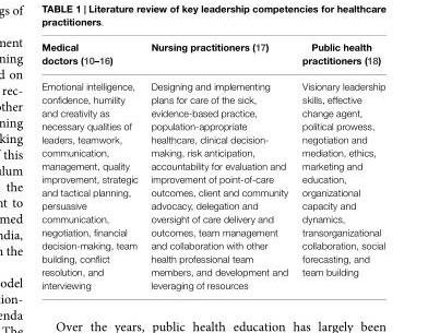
<table><thead><tr><td>Medical doctors (10–16)</td><td>Nursing practitioners (17)</td><td>Public health practitioners (18)</td></tr></thead><tbody><tr><td>Emotional intelligence, confidence, humility and creativity as necessary qualities of leaders, teamwork, communication, management, quality improvement, strategic and tactical planning, persuasive communication, negotiation, financial decision-making, team building, conflict resolution, and interviewing</td><td>Designing and implementing plans for care of the sick, evidence-based practice, population-appropriate healthcare, clinical decision- making, risk anticipation, accountability for evaluation and improvement of point-of-care outcomes, client and community advocacy, delegation and oversight of care delivery and outcomes, team management and collaboration with other health professional team members, and development and leveraging of resources</td><td>Visionary leadership skills, effective change agent, political prowess, negotiation and mediation, ethics, marketing and education, organizational capacity and dynamics, transorganizational collaboration, social forecasting, and team building</td></tr></tbody></table>